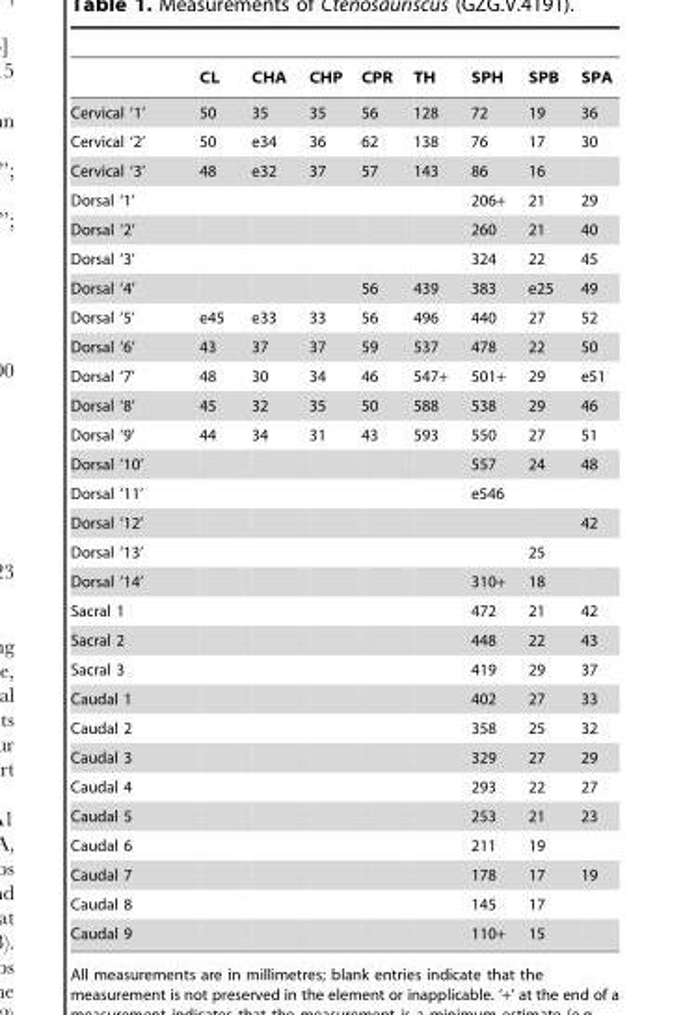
<table><thead><tr><td></td><td>CL</td><td>CHA</td><td>CHP</td><td>CPR</td><td>TH</td><td>SPH</td><td>SPB</td><td>SPA</td></tr></thead><tbody><tr><td>Cervical ‘1’</td><td>50</td><td>35</td><td>35</td><td>56</td><td>128</td><td>72</td><td>19</td><td>36</td></tr><tr><td>Cervical ‘2’</td><td>50</td><td>e34</td><td>36</td><td>62</td><td>138</td><td>76</td><td>17</td><td>30</td></tr><tr><td>Cervical ‘3’</td><td>48</td><td>e32</td><td>37</td><td>57</td><td>143</td><td>86</td><td>16</td><td></td></tr><tr><td>Dorsal ‘1’</td><td></td><td></td><td></td><td></td><td></td><td>206+</td><td>21</td><td>29</td></tr><tr><td>Dorsal ‘2’</td><td></td><td></td><td></td><td></td><td></td><td>260</td><td>21</td><td>40</td></tr><tr><td>Dorsal ‘3’</td><td></td><td></td><td></td><td></td><td></td><td>324</td><td>22</td><td>45</td></tr><tr><td>Dorsal ‘4’</td><td></td><td></td><td></td><td>56</td><td>439</td><td>383</td><td>e25</td><td>49</td></tr><tr><td>Dorsal ‘5’</td><td>e45</td><td>e33</td><td>33</td><td>56</td><td>496</td><td>440</td><td>27</td><td>52</td></tr><tr><td>Dorsal ‘6’</td><td>43</td><td>37</td><td>37</td><td>59</td><td>537</td><td>478</td><td>22</td><td>50</td></tr><tr><td>Dorsal ‘7’</td><td>48</td><td>30</td><td>34</td><td>46</td><td>547+</td><td>501+</td><td>29</td><td>e51</td></tr><tr><td>Dorsal ‘8’</td><td>45</td><td>32</td><td>35</td><td>50</td><td>588</td><td>538</td><td>29</td><td>46</td></tr><tr><td>Dorsal ‘9’</td><td>44</td><td>34</td><td>31</td><td>43</td><td>593</td><td>550</td><td>27</td><td>51</td></tr><tr><td>Dorsal ‘10’</td><td></td><td></td><td></td><td></td><td></td><td>557</td><td>24</td><td>48</td></tr><tr><td>Dorsal ‘11’</td><td></td><td></td><td></td><td></td><td></td><td>e546</td><td></td><td></td></tr><tr><td>Dorsal ‘12’</td><td></td><td></td><td></td><td></td><td></td><td></td><td></td><td>42</td></tr><tr><td>Dorsal ‘13’</td><td></td><td></td><td></td><td></td><td></td><td></td><td>25</td><td></td></tr><tr><td>Dorsal ‘14’</td><td></td><td></td><td></td><td></td><td></td><td>310+</td><td>18</td><td></td></tr><tr><td>Sacral 1</td><td></td><td></td><td></td><td></td><td></td><td>472</td><td>21</td><td>42</td></tr><tr><td>Sacral 2</td><td></td><td></td><td></td><td></td><td></td><td>448</td><td>22</td><td>43</td></tr><tr><td>Sacral 3</td><td></td><td></td><td></td><td></td><td></td><td>419</td><td>29</td><td>37</td></tr><tr><td>Caudal 1</td><td></td><td></td><td></td><td></td><td></td><td>402</td><td>27</td><td>33</td></tr><tr><td>Caudal 2</td><td></td><td></td><td></td><td></td><td></td><td>358</td><td>25</td><td>32</td></tr><tr><td>Caudal 3</td><td></td><td></td><td></td><td></td><td></td><td>329</td><td>27</td><td>29</td></tr><tr><td>Caudal 4</td><td></td><td></td><td></td><td></td><td></td><td>293</td><td>22</td><td>27</td></tr><tr><td>Caudal 5</td><td></td><td></td><td></td><td></td><td></td><td>253</td><td>21</td><td>23</td></tr><tr><td>Caudal 6</td><td></td><td></td><td></td><td></td><td></td><td>211</td><td>19</td><td></td></tr><tr><td>Caudal 7</td><td></td><td></td><td></td><td></td><td></td><td>178</td><td>17</td><td>19</td></tr><tr><td>Caudal 8</td><td></td><td></td><td></td><td></td><td></td><td>145</td><td>17</td><td></td></tr><tr><td>Caudal 9</td><td></td><td></td><td></td><td></td><td></td><td>110+</td><td>15</td><td></td></tr></tbody></table>